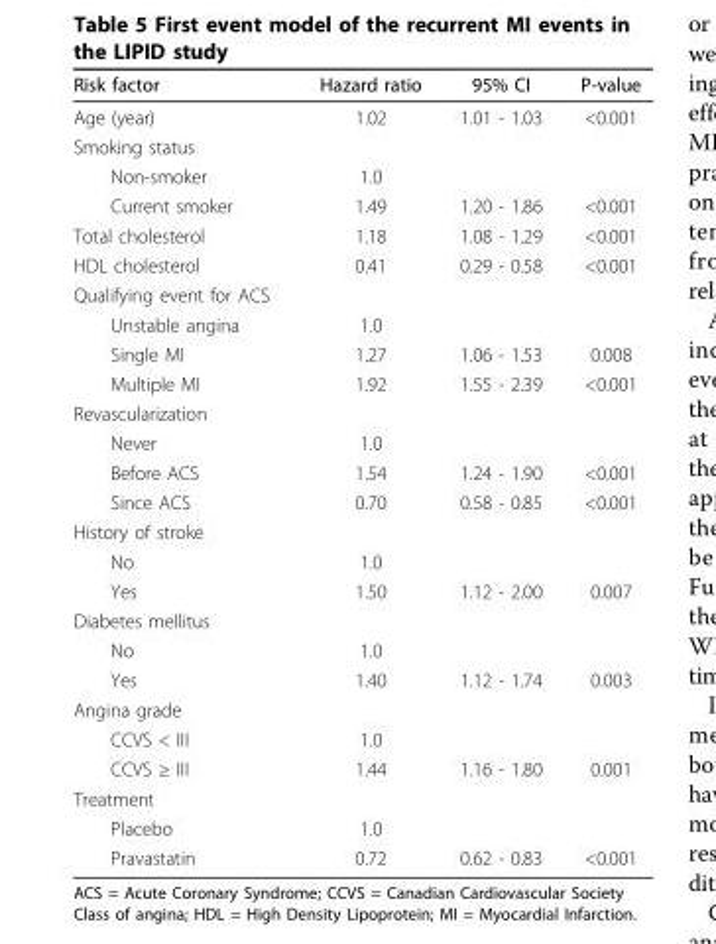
<table><thead><tr><td>Risk factor</td><td>Hazard ratio</td><td>95% CI</td><td>P-value</td></tr></thead><tbody><tr><td>Age (year)</td><td>1.02</td><td>1.01 - 1.03</td><td>&lt;0.001</td></tr><tr><td colspan="4">Smoking status</td></tr><tr><td>Non-smoker</td><td>1.0</td><td></td><td></td></tr><tr><td>Current smoker</td><td>1.49</td><td>1.20 - 1.86</td><td>&lt;0.001</td></tr><tr><td>Total cholesterol</td><td>1.18</td><td>1.08 - 1.29</td><td>&lt;0.001</td></tr><tr><td>HDL cholesterol</td><td>0.41</td><td>0.29 - 0.58</td><td>&lt;0.001</td></tr><tr><td colspan="4">Qualifying event for ACS</td></tr><tr><td>Unstable angina</td><td>1.0</td><td></td><td></td></tr><tr><td>Single MI</td><td>1.27</td><td>1.06 - 1.53</td><td>0.008</td></tr><tr><td>Multiple MI</td><td>1.92</td><td>1.55 - 2.39</td><td>&lt;0.001</td></tr><tr><td colspan="4">Revascularization</td></tr><tr><td>Never</td><td>1.0</td><td></td><td></td></tr><tr><td>Before ACS</td><td>1.54</td><td>1.24 - 1.90</td><td>&lt;0.001</td></tr><tr><td>Since ACS</td><td>0.70</td><td>0.58 - 0.85</td><td>&lt;0.001</td></tr><tr><td colspan="4">History of stroke</td></tr><tr><td>No</td><td>1.0</td><td></td><td></td></tr><tr><td>Yes</td><td>1.50</td><td>1.12 - 2.00</td><td>0.007</td></tr><tr><td colspan="4">Diabetes mellitus</td></tr><tr><td>No</td><td>1.0</td><td></td><td></td></tr><tr><td>Yes</td><td>1.40</td><td>1.12 - 1.74</td><td>0.003</td></tr><tr><td colspan="4">Angina grade</td></tr><tr><td>CCVS &lt; III</td><td>1.0</td><td></td><td></td></tr><tr><td>CCVS ≥ III</td><td>1.44</td><td>1.16 - 1.80</td><td>0.001</td></tr><tr><td colspan="4">Treatment</td></tr><tr><td>Placebo</td><td>1.0</td><td></td><td></td></tr><tr><td>Pravastatin</td><td>0.72</td><td>0.62 - 0.83</td><td>&lt;0.001</td></tr></tbody></table>